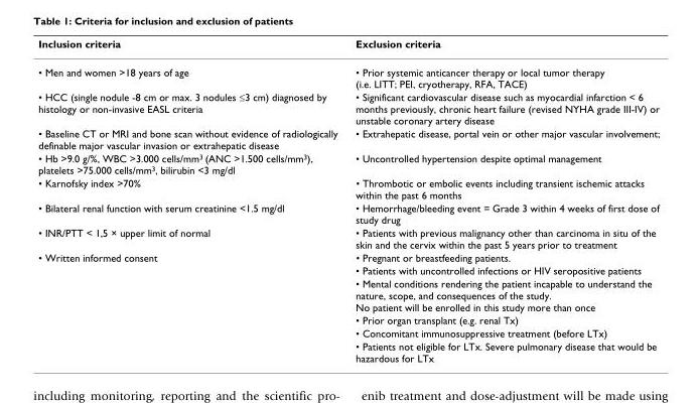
<table><thead><tr><td>Inclusion criteria</td><td>Exclusion criteria</td></tr></thead><tbody><tr><td>• Men and women &gt;18 years of age</td><td>• Prior systemic anticancer therapy or local tumor therapy (i.e. LITT; PEI, cryotherapy, RFA, TACE)</td></tr><tr><td>• HCC (single nodule -8 cm or max. 3 nodules ≤3 cm) diagnosed by histology or non-invasive EASL criteria</td><td>• Significant cardiovascular disease such as myocardial infarction &lt; 6 months previously, chronic heart failure (revised NYHA grade III-IV) or unstable coronary artery disease</td></tr><tr><td>• Baseline CT or MRI and bone scan without evidence of radiologically definable major vascular invasion or extrahepatic disease</td><td>• Extrahepatic disease, portal vein or other major vascular involvement;</td></tr><tr><td>• Hb &gt;9.0 g/%, WBC &gt;3.000 cells/mm<sup>3</sup> (ANC &gt;1.500 cells/mm<sup>3</sup>), platelets &gt;75.000 cells/mm<sup>3</sup>, bilirubin &lt;3 mg/dl</td><td>• Uncontrolled hypertension despite optimal management</td></tr><tr><td>• Karnofsky index &gt;70%</td><td>• Thrombotic or embolic events including transient ischemic attacks within the past 6 months</td></tr><tr><td>• Bilateral renal function with serum creatinine &lt;1.5 mg/dl</td><td>• Hemorrhage/bleeding event = Grade 3 within 4 weeks of first dose of study drug</td></tr><tr><td>• INR/PTT &lt; 1,5 × upper limit of normal</td><td>• Patients with previous malignancy other than carcinoma in situ of the skin and the cervix within the past 5 years prior to treatment</td></tr><tr><td rowspan="6">• Written informed consent</td><td>• Pregnant or breastfeeding patients.</td></tr><tr><td>• Patients with uncontrolled infections or HIV seropositive patients</td></tr><tr><td>• Mental conditions rendering the patient incapable to understand the nature, scope, and consequences of the study. No patient will be enrolled in this study more than once</td></tr><tr><td>• Prior organ transplant (e.g. renal Tx)</td></tr><tr><td>• Concomitant immunosuppressive treatment (before LTx)</td></tr><tr><td>• Patients not eligible for LTx. Severe pulmonary disease that would be hazardous for LTx</td></tr></tbody></table>